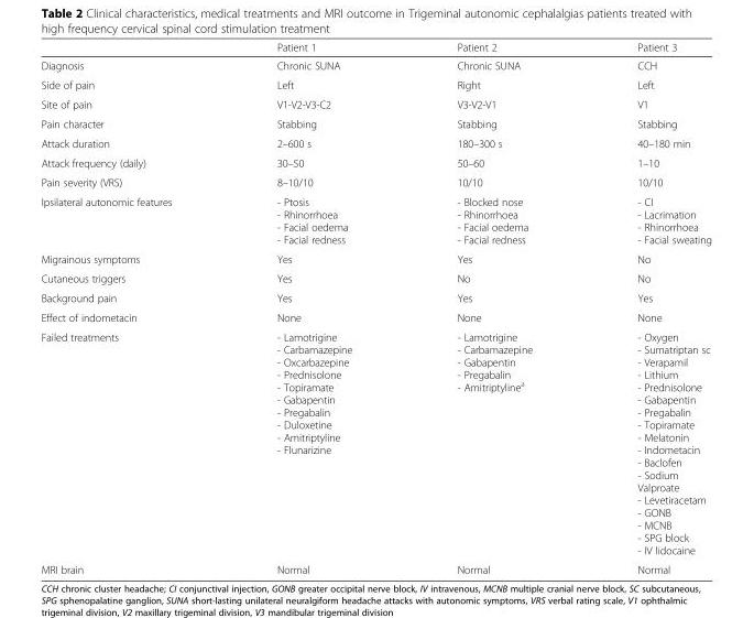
<table><thead><tr><td></td><td>Patient 1</td><td>Patient 2</td><td>Patient 3</td></tr></thead><tbody><tr><td>Diagnosis</td><td>Chronic SUNA</td><td>Chronic SUNA</td><td>CCH</td></tr><tr><td>Side of pain</td><td>Left</td><td>Right</td><td>Left</td></tr><tr><td>Site of pain</td><td>V1-V2-V3-C2</td><td>V3-V2-V1</td><td>V1</td></tr><tr><td>Pain character</td><td>Stabbing</td><td>Stabbing</td><td>Stabbing</td></tr><tr><td>Attack duration</td><td>2–600 s</td><td>180–300 s</td><td>40–180 min</td></tr><tr><td>Attack frequency (daily)</td><td>30–50</td><td>50–60</td><td>1–10</td></tr><tr><td>Pain severity (VRS)</td><td>8–10/10</td><td>10/10</td><td>10/10</td></tr><tr><td>Ipsilateral autonomic features</td><td>- Ptosis - Rhinorrhoea - Facial oedema - Facial redness</td><td>- Blocked nose - Rhinorrhoea - Facial oedema - Facial redness</td><td>- CI - Lacrimation - Rhinorrhoea - Facial sweating</td></tr><tr><td>Migrainous symptoms</td><td>Yes</td><td>Yes</td><td>No</td></tr><tr><td>Cutaneous triggers</td><td>Yes</td><td>No</td><td>No</td></tr><tr><td>Background pain</td><td>Yes</td><td>Yes</td><td>Yes</td></tr><tr><td>Effect of indometacin</td><td>None</td><td>None</td><td>None</td></tr><tr><td>Failed treatments</td><td>- Lamotrigine - Carbamazepine - Oxcarbazepine - Prednisolone - Topiramate - Gabapentin - Pregabalin - Duloxetine - Amitriptyline - Flunarizine</td><td>- Lamotrigine - Carbamazepine - Gabapentin - Pregabalin - Amitriptyline<sup>a</sup></td><td>- Oxygen - Sumatriptan sc - Verapamil - Lithium - Prednisolone - Gabapentin - Pregabalin - Topiramate - Melatonin - Indometacin - Baclofen - Sodium Valproate - Levetiracetam - GONB - MCNB - SPG block - IV lidocaine</td></tr><tr><td>MRI brain</td><td>Normal</td><td>Normal</td><td>Normal</td></tr></tbody></table>